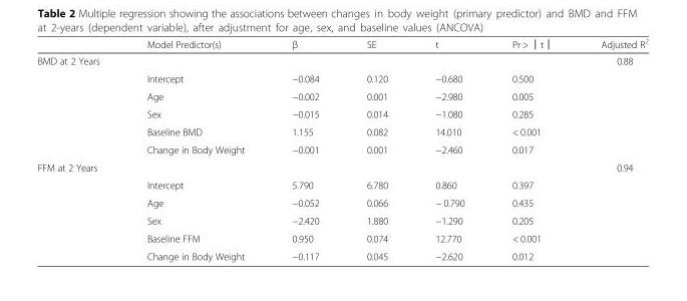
<table><thead><tr><td></td><td>Model Predictor(s)</td><td>β</td><td>SE</td><td>t</td><td>Pr &gt; │t│</td><td>Adjusted R<sup>2</sup></td></tr></thead><tbody><tr><td rowspan="6">BMD at 2 Years</td><td></td><td></td><td></td><td></td><td></td><td>0.88</td></tr><tr><td>Intercept</td><td>−0.084</td><td>0.120</td><td>−0.680</td><td>0.500</td><td></td></tr><tr><td>Age</td><td>−0.002</td><td>0.001</td><td>−2.980</td><td>0.005</td><td></td></tr><tr><td>Sex</td><td>−0.015</td><td>0.014</td><td>−1.080</td><td>0.285</td><td></td></tr><tr><td>Baseline BMD</td><td>1.155</td><td>0.082</td><td>14.010</td><td>&lt; 0.001</td><td></td></tr><tr><td>Change in Body Weight</td><td>−0.001</td><td>0.001</td><td>−2.460</td><td>0.017</td><td></td></tr><tr><td rowspan="6">FFM at 2 Years</td><td></td><td></td><td></td><td></td><td></td><td>0.94</td></tr><tr><td>Intercept</td><td>5.790</td><td>6.780</td><td>0.860</td><td>0.397</td><td></td></tr><tr><td>Age</td><td>−0.052</td><td>0.066</td><td>− 0.790</td><td>0.435</td><td></td></tr><tr><td>Sex</td><td>−2.420</td><td>1.880</td><td>−1.290</td><td>0.205</td><td></td></tr><tr><td>Baseline FFM</td><td>0.950</td><td>0.074</td><td>12.770</td><td>&lt; 0.001</td><td></td></tr><tr><td>Change in Body Weight</td><td>−0.117</td><td>0.045</td><td>−2.620</td><td>0.012</td><td></td></tr></tbody></table>